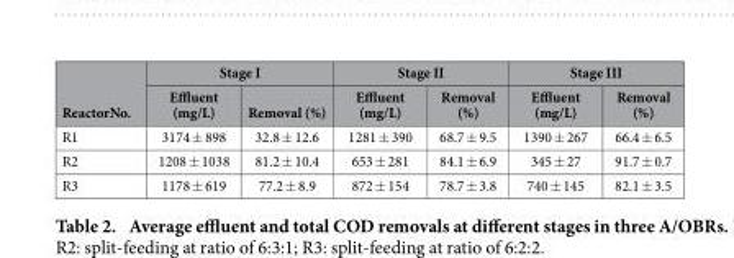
<table><thead><tr><td rowspan="2">ReactorNo.</td><td colspan="2">Stage I</td><td colspan="2">Stage II</td><td colspan="2">Stage III</td></tr><tr><td>Effluent (mg/L)</td><td>Removal (%)</td><td>Effluent (mg/L)</td><td>Removal (%)</td><td>Effluent (mg/L)</td><td>Removal (%)</td></tr></thead><tbody><tr><td>R1</td><td>3174 ± 898</td><td>32.8 ± 12.6</td><td>1281 ± 390</td><td>68.7 ± 9.5</td><td>1390 ± 267</td><td>66.4 ± 6.5</td></tr><tr><td>R2</td><td>1208 ± 1038</td><td>81.2 ± 10.4</td><td>653 ± 281</td><td>84.1 ± 6.9</td><td>345 ± 27</td><td>91.7 ± 0.7</td></tr><tr><td>R3</td><td>1178 ± 619</td><td>77.2 ± 8.9</td><td>872 ± 154</td><td>78.7 ± 3.8</td><td>740 ± 145</td><td>82.1 ± 3.5</td></tr></tbody></table>